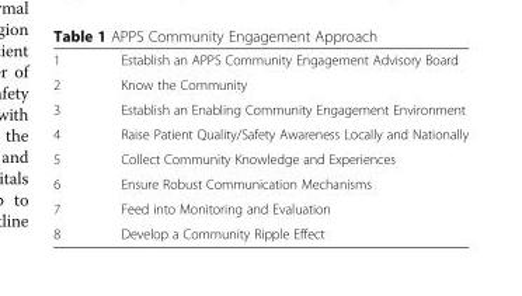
<table><tbody><tr><td>1</td><td>Establish an APPS Community Engagement Advisory Board</td></tr><tr><td>2</td><td>Know the Community</td></tr><tr><td>3</td><td>Establish an Enabling Community Engagement Environment</td></tr><tr><td>4</td><td>Raise Patient Quality/Safety Awareness Locally and Nationally</td></tr><tr><td>5</td><td>Collect Community Knowledge and Experiences</td></tr><tr><td>6</td><td>Ensure Robust Communication Mechanisms</td></tr><tr><td>7</td><td>Feed into Monitoring and Evaluation</td></tr><tr><td>8</td><td>Develop a Community Ripple Effect</td></tr></tbody></table>